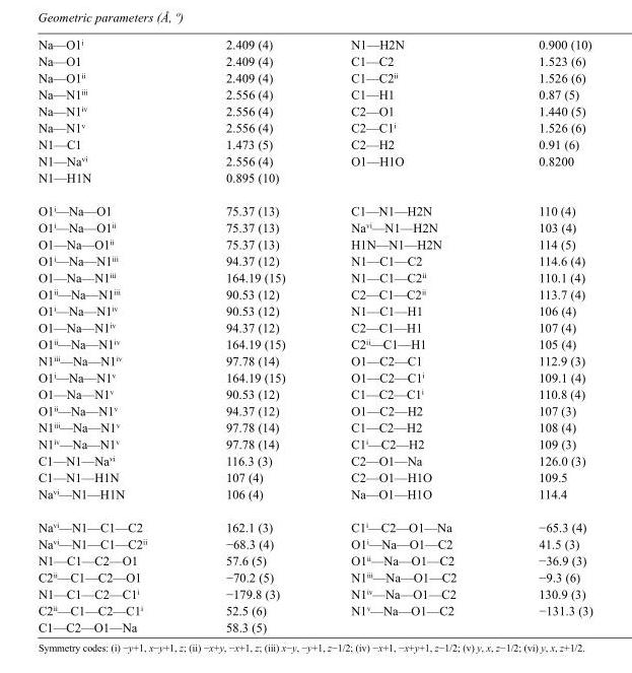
<table><tbody><tr><td>Na—O1<sup>i</sup></td><td>2.409 (4)</td><td>N1—H2N</td><td>0.900 (10)</td></tr><tr><td>Na—O1</td><td>2.409 (4)</td><td>C1—C2</td><td>1.523 (6)</td></tr><tr><td>Na—O1<sup>ii</sup></td><td>2.409 (4)</td><td>C1—C2<sup>ii</sup></td><td>1.526 (6)</td></tr><tr><td>Na—N1<sup>iii</sup></td><td>2.556 (4)</td><td>C1—H1</td><td>0.87 (5)</td></tr><tr><td>Na—N1<sup>iv</sup></td><td>2.556 (4)</td><td>C2—O1</td><td>1.440 (5)</td></tr><tr><td>Na—N1<sup>v</sup></td><td>2.556 (4)</td><td>C2—C1<sup>i</sup></td><td>1.526 (6)</td></tr><tr><td>N1—C1</td><td>1.473 (5)</td><td>C2—H2</td><td>0.91 (6)</td></tr><tr><td>N1—Na<sup>vi</sup></td><td>2.556 (4)</td><td>O1—H1O</td><td>0.8200</td></tr><tr><td>N1—H1N</td><td>0.895 (10)</td><td></td><td></td></tr><tr><td>O1<sup>i</sup>—Na—O1</td><td>75.37 (13)</td><td>C1—N1—H2N</td><td>110 (4)</td></tr><tr><td>O1<sup>i</sup>—Na—O1<sup>ii</sup></td><td>75.37 (13)</td><td>Na<sup>vi</sup>—N1—H2N</td><td>103 (4)</td></tr><tr><td>O1—Na—O1<sup>ii</sup></td><td>75.37 (13)</td><td>H1N—N1—H2N</td><td>114 (5)</td></tr><tr><td>O1<sup>i</sup>—Na—N1<sup>iii</sup></td><td>94.37 (12)</td><td>N1—C1—C2</td><td>114.6 (4)</td></tr><tr><td>O1—Na—N1<sup>iii</sup></td><td>164.19 (15)</td><td>N1—C1—C2<sup>ii</sup></td><td>110.1 (4)</td></tr><tr><td>O1<sup>ii</sup>—Na—N1<sup>iii</sup></td><td>90.53 (12)</td><td>C2—C1—C2<sup>ii</sup></td><td>113.7 (4)</td></tr><tr><td>O1<sup>i</sup>—Na—N1<sup>iv</sup></td><td>90.53 (12)</td><td>N1—C1—H1</td><td>106 (4)</td></tr><tr><td>O1—Na—N1<sup>iv</sup></td><td>94.37 (12)</td><td>C2—C1—H1</td><td>107 (4)</td></tr><tr><td>O1<sup>ii</sup>—Na—N1<sup>iv</sup></td><td>164.19 (15)</td><td>C2<sup>ii</sup>—C1—H1</td><td>105 (4)</td></tr><tr><td>N1<sup>iii</sup>—Na—N1<sup>iv</sup></td><td>97.78 (14)</td><td>O1—C2—C1</td><td>112.9 (3)</td></tr><tr><td>O1<sup>i</sup>—Na—N1<sup>v</sup></td><td>164.19 (15)</td><td>O1—C2—C1<sup>i</sup></td><td>109.1 (4)</td></tr><tr><td>O1—Na—N1<sup>v</sup></td><td>90.53 (12)</td><td>C1—C2—C1<sup>i</sup></td><td>110.8 (4)</td></tr><tr><td>O1<sup>ii</sup>—Na—N1<sup>v</sup></td><td>94.37 (12)</td><td>O1—C2—H2</td><td>107 (3)</td></tr><tr><td>N1<sup>iii</sup>—Na—N1<sup>v</sup></td><td>97.78 (14)</td><td>C1—C2—H2</td><td>108 (4)</td></tr><tr><td>N1<sup>iv</sup>—Na—N1<sup>v</sup></td><td>97.78 (14)</td><td>C1<sup>i</sup>—C2—H2</td><td>109 (3)</td></tr><tr><td>C1—N1—Na<sup>vi</sup></td><td>116.3 (3)</td><td>C2—O1—Na</td><td>126.0 (3)</td></tr><tr><td>C1—N1—H1N</td><td>107 (4)</td><td>C2—O1—H1O</td><td>109.5</td></tr><tr><td>Na<sup>vi</sup>—N1—H1N</td><td>106 (4)</td><td>Na—O1—H1O</td><td>114.4</td></tr><tr><td>Na<sup>vi</sup>—N1—C1—C2</td><td>162.1 (3)</td><td>C1<sup>i</sup>—C2—O1—Na</td><td>−65.3 (4)</td></tr><tr><td>Na<sup>vi</sup>—N1—C1—C2<sup>ii</sup></td><td>−68.3 (4)</td><td>O1<sup>i</sup>—Na—O1—C2</td><td>41.5 (3)</td></tr><tr><td>N1—C1—C2—O1</td><td>57.6 (5)</td><td>O1<sup>ii</sup>—Na—O1—C2</td><td>−36.9 (3)</td></tr><tr><td>C2<sup>ii</sup>—C1—C2—O1</td><td>−70.2 (5)</td><td>N1<sup>iii</sup>—Na—O1—C2</td><td>−9.3 (6)</td></tr><tr><td>N1—C1—C2—C1<sup>i</sup></td><td>−179.8 (3)</td><td>N1<sup>iv</sup>—Na—O1—C2</td><td>130.9 (3)</td></tr><tr><td>C2<sup>ii</sup>—C1—C2—C1<sup>i</sup></td><td>52.5 (6)</td><td>N1<sup>v</sup>—Na—O1—C2</td><td>−131.3 (3)</td></tr><tr><td>C1—C2—O1—Na</td><td>58.3 (5)</td><td></td><td></td></tr></tbody></table>